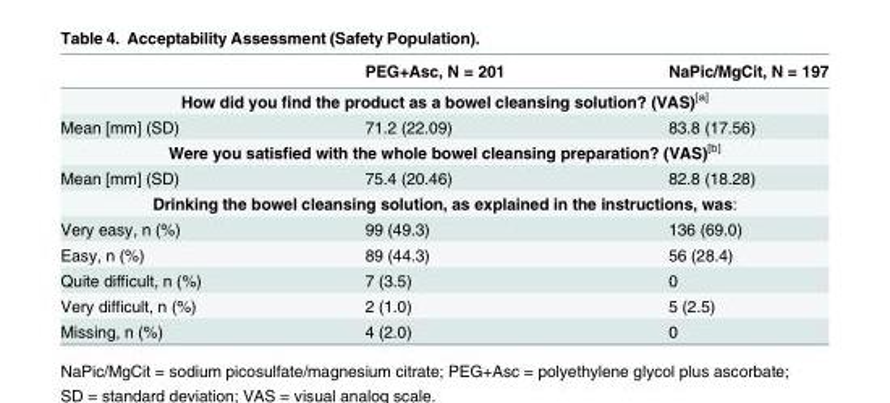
<table><thead><tr><td></td><td>PEG+Asc, N = 201</td><td>NaPic/MgCit, N = 197</td></tr></thead><tbody><tr><td colspan="3">How did you find the product as a bowel cleansing solution? (VAS)<sup>[a]</sup></td></tr><tr><td>Mean [mm] (SD)</td><td>71.2 (22.09)</td><td>83.8 (17.56)</td></tr><tr><td colspan="3">Were you satisfied with the whole bowel cleansing preparation? (VAS)<sup>[b]</sup></td></tr><tr><td>Mean [mm] (SD)</td><td>75.4 (20.46)</td><td>82.8 (18.28)</td></tr><tr><td colspan="3">Drinking the bowel cleansing solution, as explained in the instructions, was:</td></tr><tr><td>Very easy, n (%)</td><td>99 (49.3)</td><td>136 (69.0)</td></tr><tr><td>Easy, n (%)</td><td>89 (44.3)</td><td>56 (28.4)</td></tr><tr><td>Quite difficult, n (%)</td><td>7 (3.5)</td><td>0</td></tr><tr><td>Very difficult, n (%)</td><td>2 (1.0)</td><td>5 (2.5)</td></tr><tr><td>Missing, n (%)</td><td>4 (2.0)</td><td>0</td></tr></tbody></table>